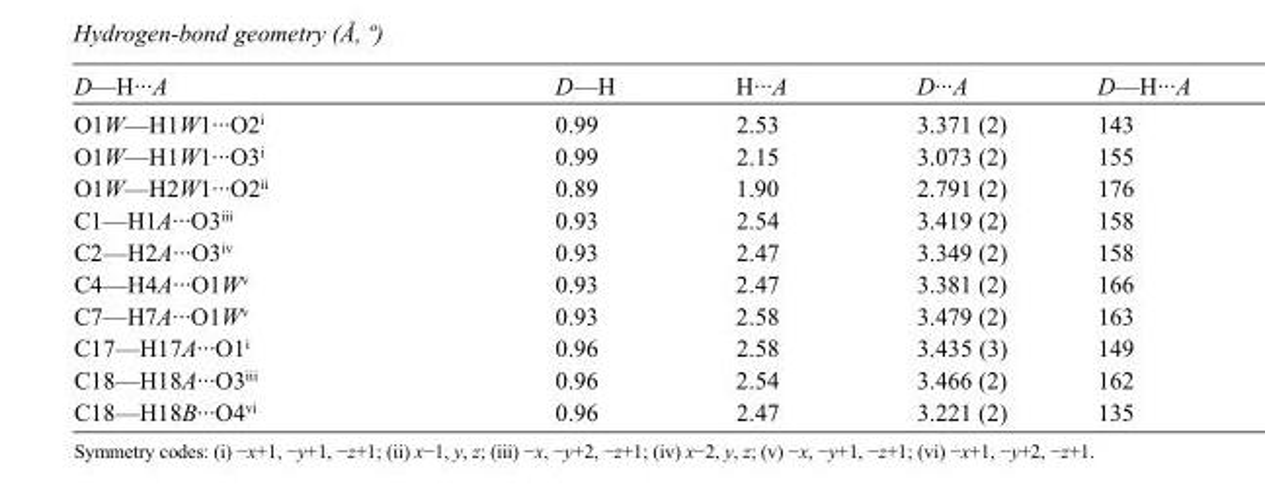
<table><tbody><tr><td>D—H···A</td><td>D—H</td><td>H···A</td><td>D···A</td><td>D—H···A</td></tr><tr><td>O1W—H1W1···O2<sup>i</sup></td><td>0.99</td><td>2.53</td><td>3.371 (2)</td><td>143</td></tr><tr><td>O1W—H1W1···O3<sup>i</sup></td><td>0.99</td><td>2.15</td><td>3.073 (2)</td><td>155</td></tr><tr><td>O1W—H2W1···O2<sup>ii</sup></td><td>0.89</td><td>1.90</td><td>2.791 (2)</td><td>176</td></tr><tr><td>C1—H1A···O3<sup>iii</sup></td><td>0.93</td><td>2.54</td><td>3.419 (2)</td><td>158</td></tr><tr><td>C2—H2A···O3<sup>iv</sup></td><td>0.93</td><td>2.47</td><td>3.349 (2)</td><td>158</td></tr><tr><td>C4—H4A···O1W<sup>v</sup></td><td>0.93</td><td>2.47</td><td>3.381 (2)</td><td>166</td></tr><tr><td>C7—H7A···O1W<sup>v</sup></td><td>0.93</td><td>2.58</td><td>3.479 (2)</td><td>163</td></tr><tr><td>C17—H17A···O1<sup>i</sup></td><td>0.96</td><td>2.58</td><td>3.435 (3)</td><td>149</td></tr><tr><td>C18—H18A···O3<sup>iii</sup></td><td>0.96</td><td>2.54</td><td>3.466 (2)</td><td>162</td></tr><tr><td>C18—H18B···O4<sup>vi</sup></td><td>0.96</td><td>2.47</td><td>3.221 (2)</td><td>135</td></tr></tbody></table>